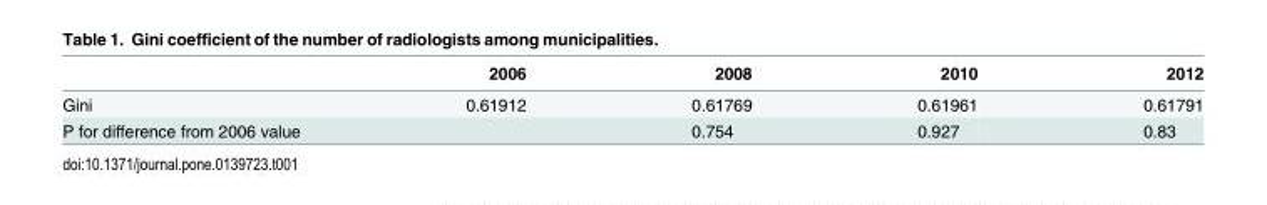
<table><thead><tr><td></td><td>2006</td><td>2008</td><td>2010</td><td>2012</td></tr></thead><tbody><tr><td>Gini</td><td>0.61912</td><td>0.61769</td><td>0.61961</td><td>0.61791</td></tr><tr><td>P for difference from 2006 value</td><td></td><td>0.754</td><td>0.927</td><td>0.83</td></tr></tbody></table>